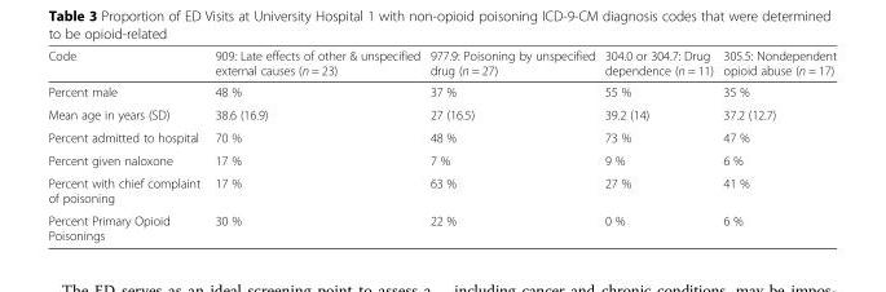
<table><thead><tr><td>Code</td><td>909: Late effects of other &amp; unspecified external causes (n = 23)</td><td>977.9: Poisoning by unspecified drug (n = 27)</td><td>304.0 or 304.7: Drug dependence (n = 11)</td><td>305.5: Nondependent opioid abuse (n = 17)</td></tr></thead><tbody><tr><td>Percent male</td><td>48 %</td><td>37 %</td><td>55 %</td><td>35 %</td></tr><tr><td>Mean age in years (SD)</td><td>38.6 (16.9)</td><td>27 (16.5)</td><td>39.2 (14)</td><td>37.2 (12.7)</td></tr><tr><td>Percent admitted to hospital</td><td>70 %</td><td>48 %</td><td>73 %</td><td>47 %</td></tr><tr><td>Percent given naloxone</td><td>17 %</td><td>7 %</td><td>9 %</td><td>6 %</td></tr><tr><td>Percent with chief complaint of poisoning</td><td>17 %</td><td>63 %</td><td>27 %</td><td>41 %</td></tr><tr><td>Percent Primary Opioid Poisonings</td><td>30 %</td><td>22 %</td><td>0 %</td><td>6 %</td></tr></tbody></table>